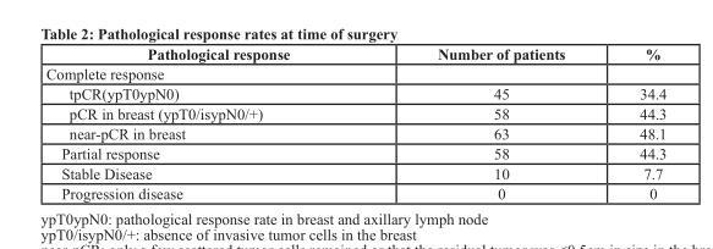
<table><thead><tr><td>Pathological response</td><td>Number of patients</td><td>%</td></tr></thead><tbody><tr><td colspan="3">Complete response</td></tr><tr><td>tpCR(ypT0ypN0)</td><td>45</td><td>34.4</td></tr><tr><td>pCR in breast (ypT0/isypN0/+)</td><td>58</td><td>44.3</td></tr><tr><td>near-pCR in breast</td><td>63</td><td>48.1</td></tr><tr><td>Partial response</td><td>58</td><td>44.3</td></tr><tr><td>Stable Disease</td><td>10</td><td>7.7</td></tr><tr><td>Progression disease</td><td>0</td><td>0</td></tr></tbody></table>